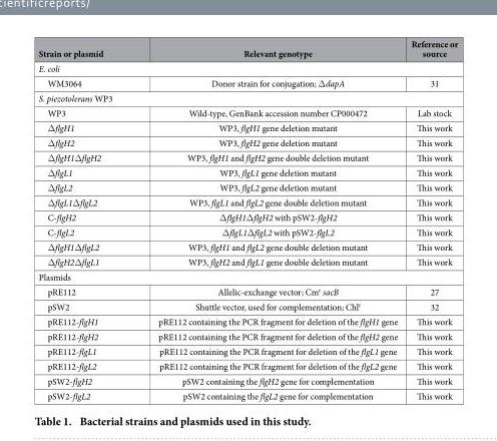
<table><thead><tr><td>Strain or plasmid</td><td>Relevant genotype</td><td>Reference or source</td></tr></thead><tbody><tr><td colspan="3">E. coli</td></tr><tr><td>WM3064</td><td>Donor strain for conjugation; Δ dapA</td><td>31</td></tr><tr><td colspan="3">S. piezotolerans WP3</td></tr><tr><td>WP3</td><td>Wild-type, GenBank accession number CP000472</td><td>Lab stock</td></tr><tr><td>Δ flgH1</td><td>WP3, flgH1 gene deletion mutant</td><td>This work</td></tr><tr><td>Δ flgH2</td><td>WP3, flgH2 gene deletion mutant</td><td>This work</td></tr><tr><td>Δ flgH1Δ flgH2</td><td>WP3, flgH1 and flgH2 gene double deletion mutant</td><td>This work</td></tr><tr><td>Δ flgL1</td><td>WP3, flgL1 gene deletion mutant</td><td>This work</td></tr><tr><td>Δ flgL2</td><td>WP3, flgL2 gene deletion mutant</td><td>This work</td></tr><tr><td>Δ flgL1Δ flgL2</td><td>WP3, flgL1 and flgL2 gene double deletion mutant</td><td>This work</td></tr><tr><td>C-flgH2</td><td>Δ flgH1Δ flgH2 with pSW2-flgH2</td><td>This work</td></tr><tr><td>C-flgL2</td><td>Δ flgL1Δ flgL2 with pSW2-flgL2</td><td>This work</td></tr><tr><td>Δ flgH1Δ flgL2</td><td>WP3, flgH1 and flgL2 gene double deletion mutant</td><td>This work</td></tr><tr><td>Δ flgH2Δ flgL1</td><td>WP3, flgH2 and flgL1 gene double deletion mutant</td><td>This work</td></tr><tr><td colspan="3">Plasmids</td></tr><tr><td>pRE112</td><td>Allelic-exchange vector; Cm<sup>r</sup> sacB</td><td>27</td></tr><tr><td>pSW2</td><td>Shuttle vector, used for complementation; Chl<sup>r</sup></td><td>32</td></tr><tr><td>pRE112-flgH1</td><td>pRE112 containing the PCR fragment for deletion of the flgH1 gene</td><td>This work</td></tr><tr><td>pRE112-flgH2</td><td>pRE112 containing the PCR fragment for deletion of the flgH2 gene</td><td>This work</td></tr><tr><td>pRE112-flgL1</td><td>pRE112 containing the PCR fragment for deletion of the flgL1 gene</td><td>This work</td></tr><tr><td>pRE112-flgL2</td><td>pRE112 containing the PCR fragment for deletion of the flgL2 gene</td><td>This work</td></tr><tr><td>pSW2-flgH2</td><td>pSW2 containing the flgH2 gene for complementation</td><td>This work</td></tr><tr><td>pSW2-flgL2</td><td>pSW2 containing the flgL2 gene for complementation</td><td>This work</td></tr></tbody></table>